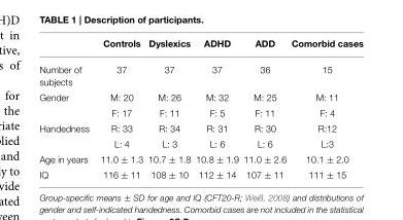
<table><thead><tr><td></td><td>Controls</td><td>Dyslexics</td><td>ADHD</td><td>ADD</td><td>Comorbid cases</td></tr></thead><tbody><tr><td>Number of subjects</td><td>37</td><td>37</td><td>37</td><td>36</td><td>15</td></tr><tr><td rowspan="2">Gender</td><td>M: 20</td><td>M: 26</td><td>M: 32</td><td>M: 25</td><td>M: 11</td></tr><tr><td>F: 17</td><td>F: 11</td><td>F: 5</td><td>F: 11</td><td>F: 4</td></tr><tr><td rowspan="2">Handedness</td><td>R: 33</td><td>R: 34</td><td>R: 31</td><td>R: 30</td><td>R:12</td></tr><tr><td>L: 4</td><td>L: 3</td><td>L: 6</td><td>L: 6</td><td>L:3</td></tr><tr><td>Age in years</td><td>11.0 ± 1.3</td><td>10.7 ± 1.8</td><td>10.8 ± 1.9</td><td>11.0 ± 2.6</td><td>10.1 ± 2.0</td></tr><tr><td>IQ</td><td>116 ± 11</td><td>108 ± 10</td><td>112 ± 14</td><td>107 ± 11</td><td>111 ± 15</td></tr></tbody></table>